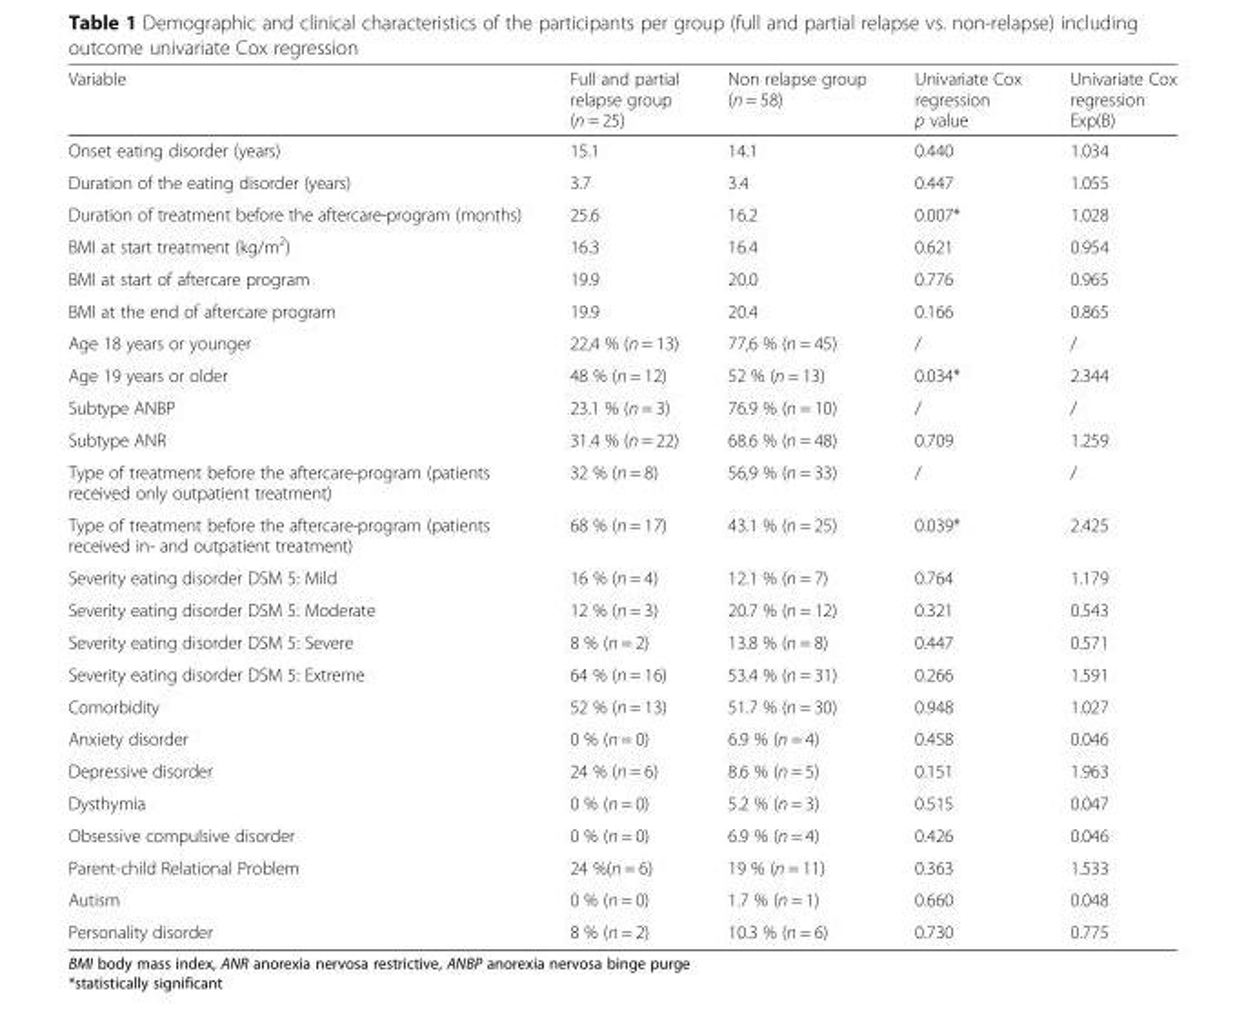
<table><thead><tr><td>Variable</td><td>Full and partial relapse group (n = 25)</td><td>Non relapse group (n = 58)</td><td>Univariate Cox regression p value</td><td>Univariate Cox regression Exp(B)</td></tr></thead><tbody><tr><td>Onset eating disorder (years)</td><td>15.1</td><td>14.1</td><td>0.440</td><td>1.034</td></tr><tr><td>Duration of the eating disorder (years)</td><td>3.7</td><td>3.4</td><td>0.447</td><td>1.055</td></tr><tr><td>Duration of treatment before the aftercare-program (months)</td><td>25.6</td><td>16.2</td><td>0.007*</td><td>1.028</td></tr><tr><td>BMI at start treatment (kg/m<sup>2</sup>)</td><td>16.3</td><td>16.4</td><td>0.621</td><td>0.954</td></tr><tr><td>BMI at start of aftercare program</td><td>19.9</td><td>20.0</td><td>0.776</td><td>0.965</td></tr><tr><td>BMI at the end of aftercare program</td><td>19.9</td><td>20.4</td><td>0.166</td><td>0.865</td></tr><tr><td>Age 18 years or younger</td><td>22,4 % (n = 13)</td><td>77,6 % (n = 45)</td><td>/</td><td>/</td></tr><tr><td>Age 19 years or older</td><td>48 % (n = 12)</td><td>52 % (n = 13)</td><td>0.034*</td><td>2.344</td></tr><tr><td>Subtype ANBP</td><td>23.1 % (n = 3)</td><td>76.9 % (n = 10)</td><td>/</td><td>/</td></tr><tr><td>Subtype ANR</td><td>31.4 % (n = 22)</td><td>68.6 % (n = 48)</td><td>0.709</td><td>1.259</td></tr><tr><td>Type of treatment before the aftercare-program (patients received only outpatient treatment)</td><td>32 % (n = 8)</td><td>56,9 % (n = 33)</td><td>/</td><td>/</td></tr><tr><td>Type of treatment before the aftercare-program (patients received in- and outpatient treatment)</td><td>68 % (n = 17)</td><td>43.1 % (n = 25)</td><td>0.039*</td><td>2.425</td></tr><tr><td>Severity eating disorder DSM 5: Mild</td><td>16 % (n = 4)</td><td>12.1 % (n = 7)</td><td>0.764</td><td>1.179</td></tr><tr><td>Severity eating disorder DSM 5: Moderate</td><td>12 % (n = 3)</td><td>20.7 % (n = 12)</td><td>0.321</td><td>0.543</td></tr><tr><td>Severity eating disorder DSM 5: Severe</td><td>8 % (n = 2)</td><td>13.8 % (n = 8)</td><td>0.447</td><td>0.571</td></tr><tr><td>Severity eating disorder DSM 5: Extreme</td><td>64 % (n = 16)</td><td>53.4 % (n = 31)</td><td>0.266</td><td>1.591</td></tr><tr><td>Comorbidity</td><td>52 % (n = 13)</td><td>51.7 % (n = 30)</td><td>0.948</td><td>1.027</td></tr><tr><td>Anxiety disorder</td><td>0 % (n = 0)</td><td>6.9 % (n = 4)</td><td>0.458</td><td>0.046</td></tr><tr><td>Depressive disorder</td><td>24 % (n = 6)</td><td>8.6 % (n = 5)</td><td>0.151</td><td>1.963</td></tr><tr><td>Dysthymia</td><td>0 % (n = 0)</td><td>5.2 % (n = 3)</td><td>0.515</td><td>0.047</td></tr><tr><td>Obsessive compulsive disorder</td><td>0 % (n = 0)</td><td>6.9 % (n = 4)</td><td>0.426</td><td>0.046</td></tr><tr><td>Parent-child Relational Problem</td><td>24 %(n = 6)</td><td>19 % (n = 11)</td><td>0.363</td><td>1.533</td></tr><tr><td>Autism</td><td>0 % (n = 0)</td><td>1.7 % (n = 1)</td><td>0.660</td><td>0.048</td></tr><tr><td>Personality disorder</td><td>8 % (n = 2)</td><td>10.3 % (n = 6)</td><td>0.730</td><td>0.775</td></tr></tbody></table>